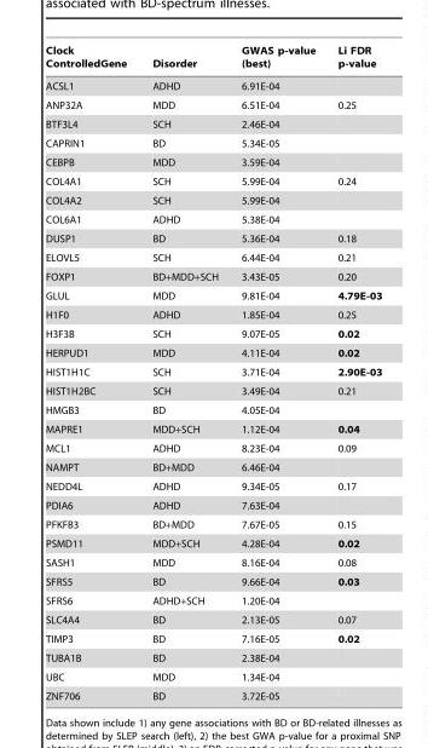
<table><thead><tr><td>Clock ControlledGene</td><td>Disorder</td><td>GWAS p-value (best)</td><td>Li FDR p-value</td></tr></thead><tbody><tr><td>ACSL1</td><td>ADHD</td><td>6.91E-04</td><td></td></tr><tr><td>ANP32A</td><td>MDD</td><td>6.51E-04</td><td>0.25</td></tr><tr><td>BTF3L4</td><td>SCH</td><td>2.46E-04</td><td></td></tr><tr><td>CAPRIN1</td><td>BD</td><td>5.34E-05</td><td></td></tr><tr><td>CEBPB</td><td>MDD</td><td>3.59E-04</td><td></td></tr><tr><td>COL4A1</td><td>SCH</td><td>5.99E-04</td><td>0.24</td></tr><tr><td>COL4A2</td><td>SCH</td><td>5.99E-04</td><td></td></tr><tr><td>COL6A1</td><td>ADHD</td><td>5.38E-04</td><td></td></tr><tr><td>DUSP1</td><td>BD</td><td>5.36E-04</td><td>0.18</td></tr><tr><td>ELOVL5</td><td>SCH</td><td>6.44E-04</td><td>0.21</td></tr><tr><td>FOXP1</td><td>BD+MDD+SCH</td><td>3.43E-05</td><td>0.20</td></tr><tr><td>GLUL</td><td>MDD</td><td>9.81E-04</td><td>4.79E-03</td></tr><tr><td>H1F0</td><td>ADHD</td><td>1.85E-04</td><td>0.25</td></tr><tr><td>H3F3B</td><td>SCH</td><td>9.07E-05</td><td>0.02</td></tr><tr><td>HERPUD1</td><td>MDD</td><td>4.11E-04</td><td>0.02</td></tr><tr><td>HIST1H1C</td><td>SCH</td><td>3.71E-04</td><td>2.90E-03</td></tr><tr><td>HIST1H2BC</td><td>SCH</td><td>3.49E-04</td><td>0.21</td></tr><tr><td>HMGB3</td><td>BD</td><td>4.05E-04</td><td></td></tr><tr><td>MAPRE1</td><td>MDD+SCH</td><td>1.12E-04</td><td>0.04</td></tr><tr><td>MCL1</td><td>ADHD</td><td>8.23E-04</td><td>0.09</td></tr><tr><td>NAMPT</td><td>BD+MDD</td><td>6.46E-04</td><td></td></tr><tr><td>NEDD4L</td><td>ADHD</td><td>9.34E-05</td><td>0.17</td></tr><tr><td>PDIA6</td><td>ADHD</td><td>7.63E-04</td><td></td></tr><tr><td>PFKFB3</td><td>BD+MDD</td><td>7.67E-05</td><td>0.15</td></tr><tr><td>PSMD11</td><td>MDD+SCH</td><td>4.28E-04</td><td>0.02</td></tr><tr><td>SASH1</td><td>MDD</td><td>8.16E-04</td><td>0.08</td></tr><tr><td>SFRS5</td><td>BD</td><td>9.66E-04</td><td>0.03</td></tr><tr><td>SFRS6</td><td>ADHD+SCH</td><td>1.20E-04</td><td></td></tr><tr><td>SLC4A4</td><td>BD</td><td>2.13E-05</td><td>0.07</td></tr><tr><td>TIMP3</td><td>BD</td><td>7.16E-05</td><td>0.02</td></tr><tr><td>TUBA1B</td><td>BD</td><td>2.38E-04</td><td></td></tr><tr><td>UBC</td><td>MDD</td><td>1.34E-04</td><td></td></tr><tr><td>ZNF706</td><td>BD</td><td>3.72E-05</td><td></td></tr></tbody></table>